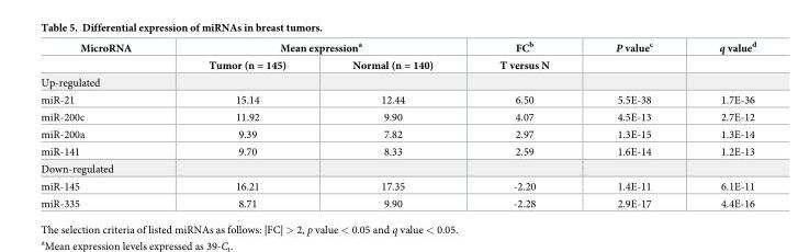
<table><thead><tr><td rowspan="2">MicroRNA</td><td colspan="2">Mean expression<sup>a</sup></td><td rowspan="2">FC<sup>b</sup> T versus N</td><td rowspan="2">P value<sup>c</sup></td><td rowspan="2">q value<sup>d</sup></td></tr><tr><td>Tumor (n = 145)</td><td>Normal (n = 140)</td></tr></thead><tbody><tr><td colspan="6">Up-regulated</td></tr><tr><td>miR-21</td><td>15.14</td><td>12.44</td><td>6.50</td><td>5.5E-38</td><td>1.7E-36</td></tr><tr><td>miR-200c</td><td>11.92</td><td>9.90</td><td>4.07</td><td>4.5E-13</td><td>2.7E-12</td></tr><tr><td>miR-200a</td><td>9.39</td><td>7.82</td><td>2.97</td><td>1.3E-15</td><td>1.3E-14</td></tr><tr><td>miR-141</td><td>9.70</td><td>8.33</td><td>2.59</td><td>1.6E-14</td><td>1.2E-13</td></tr><tr><td colspan="6">Down-regulated</td></tr><tr><td>miR-145</td><td>16.21</td><td>17.35</td><td>-2.20</td><td>1.4E-11</td><td>6.1E-11</td></tr><tr><td>miR-335</td><td>8.71</td><td>9.90</td><td>-2.28</td><td>2.9E-17</td><td>4.4E-16</td></tr></tbody></table>